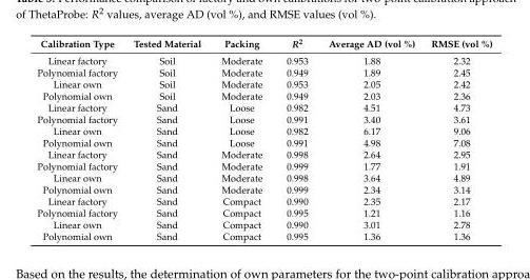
<table><thead><tr><td>Calibration Type</td><td>Tested Material</td><td>Packing</td><td>R<sup>2</sup></td><td>Average AD (vol %)</td><td>RMSE (vol %)</td></tr></thead><tbody><tr><td>Linear factory</td><td>Soil</td><td>Moderate</td><td>0.953</td><td>1.88</td><td>2.32</td></tr><tr><td>Polynomial factory</td><td>Soil</td><td>Moderate</td><td>0.949</td><td>1.89</td><td>2.45</td></tr><tr><td>Linear own</td><td>Soil</td><td>Moderate</td><td>0.953</td><td>2.05</td><td>2.42</td></tr><tr><td>Polynomial own</td><td>Soil</td><td>Moderate</td><td>0.949</td><td>2.03</td><td>2.36</td></tr><tr><td>Linear factory</td><td>Sand</td><td>Loose</td><td>0.982</td><td>4.51</td><td>4.73</td></tr><tr><td>Polynomial factory</td><td>Sand</td><td>Loose</td><td>0.991</td><td>3.40</td><td>3.61</td></tr><tr><td>Linear own</td><td>Sand</td><td>Loose</td><td>0.982</td><td>6.17</td><td>9.06</td></tr><tr><td>Polynomial own</td><td>Sand</td><td>Loose</td><td>0.991</td><td>4.98</td><td>7.08</td></tr><tr><td>Linear factory</td><td>Sand</td><td>Moderate</td><td>0.998</td><td>2.64</td><td>2.95</td></tr><tr><td>Polynomial factory</td><td>Sand</td><td>Moderate</td><td>0.999</td><td>1.77</td><td>1.91</td></tr><tr><td>Linear own</td><td>Sand</td><td>Moderate</td><td>0.998</td><td>3.64</td><td>4.89</td></tr><tr><td>Polynomial own</td><td>Sand</td><td>Moderate</td><td>0.999</td><td>2.34</td><td>3.14</td></tr><tr><td>Linear factory</td><td>Sand</td><td>Compact</td><td>0.990</td><td>2.35</td><td>2.17</td></tr><tr><td>Polynomial factory</td><td>Sand</td><td>Compact</td><td>0.995</td><td>1.21</td><td>1.16</td></tr><tr><td>Linear own</td><td>Sand</td><td>Compact</td><td>0.990</td><td>3.01</td><td>2.78</td></tr><tr><td>Polynomial own</td><td>Sand</td><td>Compact</td><td>0.995</td><td>1.36</td><td>1.36</td></tr></tbody></table>